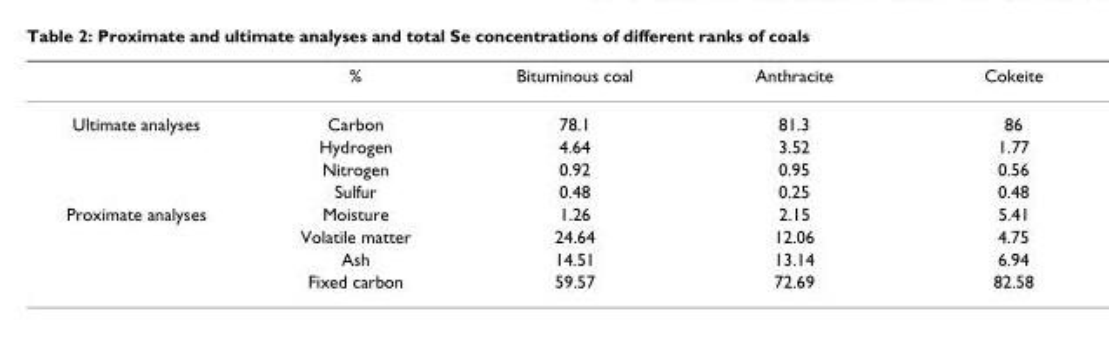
<table><thead><tr><td></td><td>%</td><td>Bituminous coal</td><td>Anthracite</td><td>Cokeite</td></tr></thead><tbody><tr><td rowspan="4">Ultimate analyses</td><td>Carbon</td><td>78.1</td><td>81.3</td><td>86</td></tr><tr><td>Hydrogen</td><td>4.64</td><td>3.52</td><td>1.77</td></tr><tr><td>Nitrogen</td><td>0.92</td><td>0.95</td><td>0.56</td></tr><tr><td>Sulfur</td><td>0.48</td><td>0.25</td><td>0.48</td></tr><tr><td rowspan="4">Proximate analyses</td><td>Moisture</td><td>1.26</td><td>2.15</td><td>5.41</td></tr><tr><td>Volatile matter</td><td>24.64</td><td>12.06</td><td>4.75</td></tr><tr><td>Ash</td><td>14.51</td><td>13.14</td><td>6.94</td></tr><tr><td>Fixed carbon</td><td>59.57</td><td>72.69</td><td>82.58</td></tr></tbody></table>